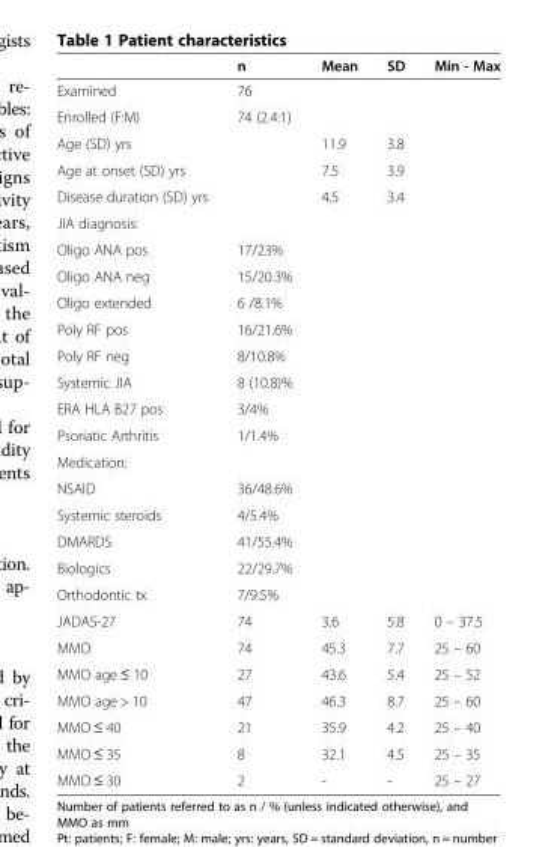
<table><thead><tr><td></td><td>n</td><td>Mean</td><td>SD</td><td>Min - Max</td></tr></thead><tbody><tr><td>Examined</td><td>76</td><td></td><td></td><td></td></tr><tr><td>Enrolled (F:M)</td><td>74 (2.4:1)</td><td></td><td></td><td></td></tr><tr><td>Age (SD) yrs</td><td></td><td>11.9</td><td>3.8</td><td></td></tr><tr><td>Age at onset (SD) yrs</td><td></td><td>7.5</td><td>3.9</td><td></td></tr><tr><td>Disease duration (SD) yrs</td><td></td><td>4.5</td><td>3.4</td><td></td></tr><tr><td colspan="5">JIA diagnosis:</td></tr><tr><td>Oligo ANA pos</td><td>17/23%</td><td></td><td></td><td></td></tr><tr><td>Oligo ANA neg</td><td>15/20.3%</td><td></td><td></td><td></td></tr><tr><td>Oligo extended</td><td>6 /8.1%</td><td></td><td></td><td></td></tr><tr><td>Poly RF pos</td><td>16/21.6%</td><td></td><td></td><td></td></tr><tr><td>Poly RF neg</td><td>8/10.8%</td><td></td><td></td><td></td></tr><tr><td>Systemic JIA</td><td>8 (10.8)%</td><td></td><td></td><td></td></tr><tr><td>ERA HLA B27 pos</td><td>3/4%</td><td></td><td></td><td></td></tr><tr><td>Psoriatic Arthritis</td><td>1/1.4%</td><td></td><td></td><td></td></tr><tr><td colspan="5">Medication:</td></tr><tr><td>NSAID</td><td>36/48.6%</td><td></td><td></td><td></td></tr><tr><td>Systemic steroids</td><td>4/5.4%</td><td></td><td></td><td></td></tr><tr><td>DMARDS</td><td>41/55.4%</td><td></td><td></td><td></td></tr><tr><td>Biologics</td><td>22/29.7%</td><td></td><td></td><td></td></tr><tr><td>Orthodontic tx</td><td>7/9.5%</td><td></td><td></td><td></td></tr><tr><td>JADAS-27</td><td>74</td><td>3.6</td><td>5.8</td><td>0 – 37.5</td></tr><tr><td>MMO</td><td>74</td><td>45.3</td><td>7.7</td><td>25 – 60</td></tr><tr><td>MMO age ≤ 10</td><td>27</td><td>43.6</td><td>5.4</td><td>25 – 52</td></tr><tr><td>MMO age &gt; 10</td><td>47</td><td>46.3</td><td>8.7</td><td>25 – 60</td></tr><tr><td>MMO ≤ 40</td><td>21</td><td>35.9</td><td>4.2</td><td>25 – 40</td></tr><tr><td>MMO ≤ 35</td><td>8</td><td>32.1</td><td>4.5</td><td>25 – 35</td></tr><tr><td>MMO ≤ 30</td><td>2</td><td>-</td><td>-</td><td>25 – 27</td></tr></tbody></table>